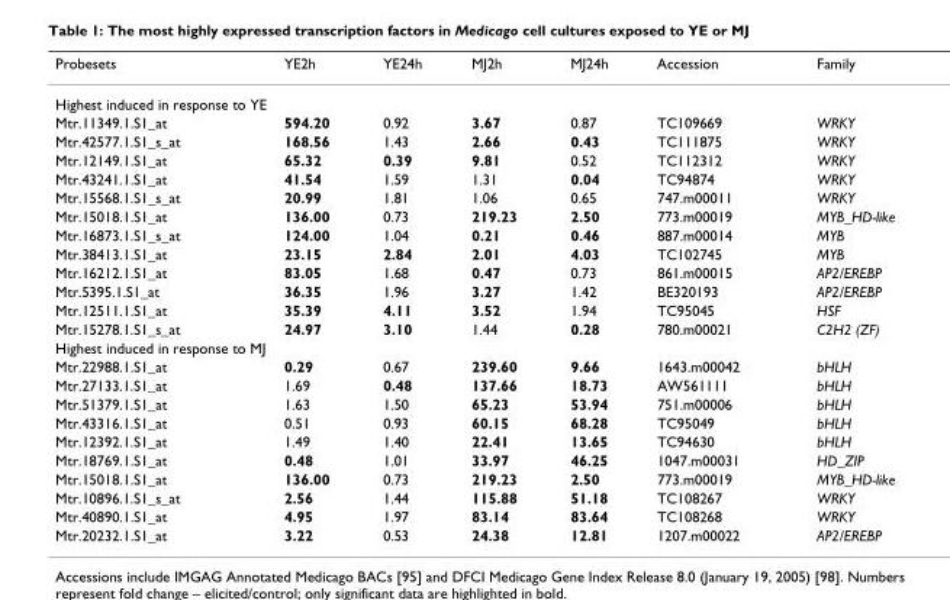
<table><thead><tr><td>Probesets</td><td>YE2h</td><td>YE24h</td><td>MJ2h</td><td>MJ24h</td><td>Accession</td><td>Family</td></tr></thead><tbody><tr><td colspan="7">Highest induced in response to YE</td></tr><tr><td>Mtr.11349.1.S1_at</td><td>594.20</td><td>0.92</td><td>3.67</td><td>0.87</td><td>TC109669</td><td>WRKY</td></tr><tr><td>Mtr.42577.1.S1_s_at</td><td>168.56</td><td>1.43</td><td>2.66</td><td>0.43</td><td>TC111875</td><td>WRKY</td></tr><tr><td>Mtr.12149.1.S1_at</td><td>65.32</td><td>0.39</td><td>9.81</td><td>0.52</td><td>TC112312</td><td>WRKY</td></tr><tr><td>Mtr.43241.1.S1_at</td><td>41.54</td><td>1.59</td><td>1.31</td><td>0.04</td><td>TC94874</td><td>WRKY</td></tr><tr><td>Mtr.15568.1.S1_s_at</td><td>20.99</td><td>1.81</td><td>1.06</td><td>0.65</td><td>747.m00011</td><td>WRKY</td></tr><tr><td>Mtr.15018.1.S1_at</td><td>136.00</td><td>0.73</td><td>219.23</td><td>2.50</td><td>773.m00019</td><td>MYB_HD-like</td></tr><tr><td>Mtr.16873.1.S1_s_at</td><td>124.00</td><td>1.04</td><td>0.21</td><td>0.46</td><td>887.m00014</td><td>MYB</td></tr><tr><td>Mtr.38413.1.S1_at</td><td>23.15</td><td>2.84</td><td>2.01</td><td>4.03</td><td>TC102745</td><td>MYB</td></tr><tr><td>Mtr.16212.1.S1_at</td><td>83.05</td><td>1.68</td><td>0.47</td><td>0.73</td><td>861.m00015</td><td>AP2/EREBP</td></tr><tr><td>Mtr.5395.1.S1_at</td><td>36.35</td><td>1.96</td><td>3.27</td><td>1.42</td><td>BE320193</td><td>AP2/EREBP</td></tr><tr><td>Mtr.12511.1.S1_at</td><td>35.39</td><td>4.11</td><td>3.52</td><td>1.94</td><td>TC95045</td><td>HSF</td></tr><tr><td>Mtr.15278.1.S1_s_at</td><td>24.97</td><td>3.10</td><td>1.44</td><td>0.28</td><td>780.m00021</td><td>C2H2 (ZF)</td></tr><tr><td colspan="7">Highest induced in response to MJ</td></tr><tr><td>Mtr.22988.1.S1_at</td><td>0.29</td><td>0.67</td><td>239.60</td><td>9.66</td><td>1643.m00042</td><td>bHLH</td></tr><tr><td>Mtr.27133.1.S1_at</td><td>1.69</td><td>0.48</td><td>137.66</td><td>18.73</td><td>AW561111</td><td>bHLH</td></tr><tr><td>Mtr.51379.1.S1_at</td><td>1.63</td><td>1.50</td><td>65.23</td><td>53.94</td><td>751.m00006</td><td>bHLH</td></tr><tr><td>Mtr.43316.1.S1_at</td><td>0.51</td><td>0.93</td><td>60.15</td><td>68.28</td><td>TC95049</td><td>bHLH</td></tr><tr><td>Mtr.12392.1.S1_at</td><td>1.49</td><td>1.40</td><td>22.41</td><td>13.65</td><td>TC94630</td><td>bHLH</td></tr><tr><td>Mtr.18769.1.S1_at</td><td>0.48</td><td>1.01</td><td>33.97</td><td>46.25</td><td>1047.m00031</td><td>HD_ZIP</td></tr><tr><td>Mtr.15018.1.S1_at</td><td>136.00</td><td>0.73</td><td>219.23</td><td>2.50</td><td>773.m00019</td><td>MYB_HD-like</td></tr><tr><td>Mtr.10896.1.S1_s_at</td><td>2.56</td><td>1.44</td><td>115.88</td><td>51.18</td><td>TC108267</td><td>WRKY</td></tr><tr><td>Mtr.40890.1.S1_at</td><td>4.95</td><td>1.97</td><td>83.14</td><td>83.64</td><td>TC108268</td><td>WRKY</td></tr><tr><td>Mtr.20232.1.S1_at</td><td>3.22</td><td>0.53</td><td>24.38</td><td>12.81</td><td>1207.m00022</td><td>AP2/EREBP</td></tr></tbody></table>